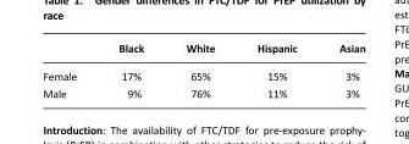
<table><thead><tr><td></td><td>Black</td><td>White</td><td>Hispanic</td><td>Asian</td></tr></thead><tbody><tr><td>Female</td><td>17%</td><td>65%</td><td>15%</td><td>3%</td></tr><tr><td>Male</td><td>9%</td><td>76%</td><td>11%</td><td>3%</td></tr></tbody></table>